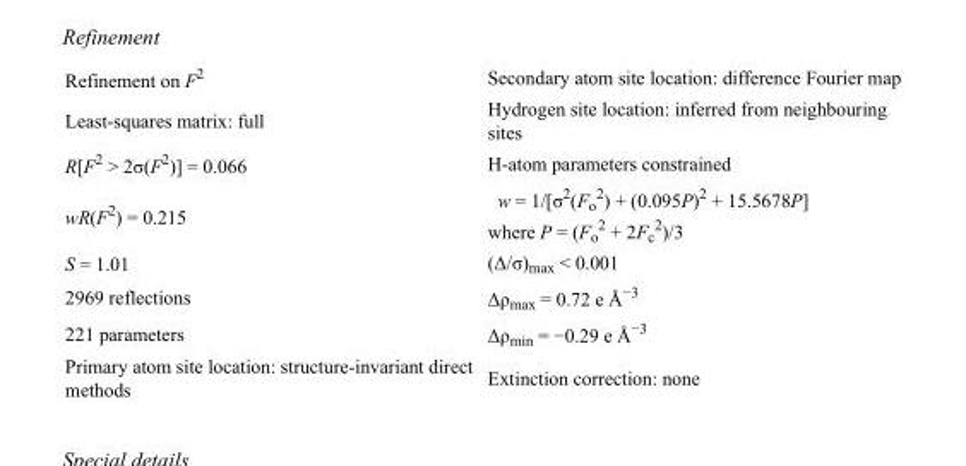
<table><tbody><tr><td>Refinement on F<sup>2</sup></td><td>Secondary atom site location: difference Fourier map</td></tr><tr><td>Least-squares matrix: full</td><td>Hydrogen site location: inferred from neighbouring sites</td></tr><tr><td>R[F<sup>2</sup> &gt; 2σ(F<sup>2</sup>)] = 0.066</td><td>H-atom parameters constrained</td></tr><tr><td>wR(F<sup>2</sup>) = 0.215</td><td>w = 1/[σ<sup>2</sup>(F<sub>o</sub> <sup>2</sup>) + (0.095P)<sup>2</sup> + 15.5678P] where P = (F<sub>o</sub> <sup>2</sup> + 2F<sub>c</sub> <sup>2</sup>)/3</td></tr><tr><td>S = 1.01</td><td>(Δ/σ)<sub>max</sub> &lt; 0.001</td></tr><tr><td>2969 reflections</td><td>Δρ<sub>max</sub> = 0.72 e Å<sup>−3</sup></td></tr><tr><td>221 parameters</td><td>Δρ<sub>min</sub> = −0.29 e Å<sup>−3</sup></td></tr><tr><td>Primary atom site location: structure-invariant direct methods</td><td>Extinction correction: none</td></tr></tbody></table>